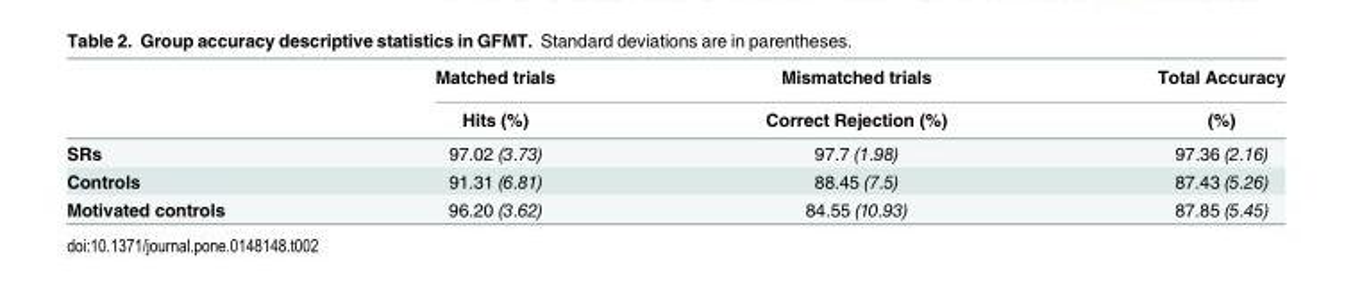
<table><thead><tr><td rowspan="2"></td><td rowspan="2">Matched trials Hits (%)</td><td rowspan="2">Mismatched trials Correct Rejection (%)</td><td rowspan="2">Total Accuracy (%)</td></tr><tr></tr></thead><tbody><tr><td>SRs</td><td>97.02 (3.73)</td><td>97.7 (1.98)</td><td>97.36 (2.16)</td></tr><tr><td>Controls</td><td>91.31 (6.81)</td><td>88.45 (7.5)</td><td>87.43 (5.26)</td></tr><tr><td>Motivated controls</td><td>96.20 (3.62)</td><td>84.55 (10.93)</td><td>87.85 (5.45)</td></tr></tbody></table>